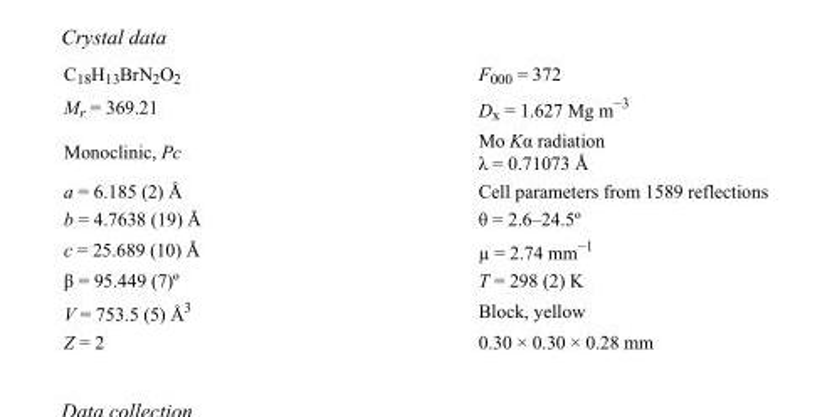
<table><tbody><tr><td>C<sub>18</sub>H<sub>13</sub>BrN<sub>2</sub>O<sub>2</sub></td><td>F000 = 372</td></tr><tr><td>M<sub>r</sub> = 369.21</td><td>D<sub>x</sub> = 1.627 Mg m<sup>−3</sup></td></tr><tr><td>Monoclinic, Pc</td><td>Mo Kα radiation λ = 0.71073 Å</td></tr><tr><td>a = 6.185 (2) Å</td><td>Cell parameters from 1589 reflections</td></tr><tr><td>b = 4.7638 (19) Å</td><td>θ = 2.6–24.5º</td></tr><tr><td>c = 25.689 (10) Å</td><td>µ = 2.74 mm<sup>−1</sup></td></tr><tr><td>β = 95.449 (7)º</td><td>T = 298 (2) K</td></tr><tr><td>V = 753.5 (5) Å<sup>3</sup></td><td>Block, yellow</td></tr><tr><td>Z = 2</td><td>0.30 × 0.30 × 0.28 mm</td></tr></tbody></table>